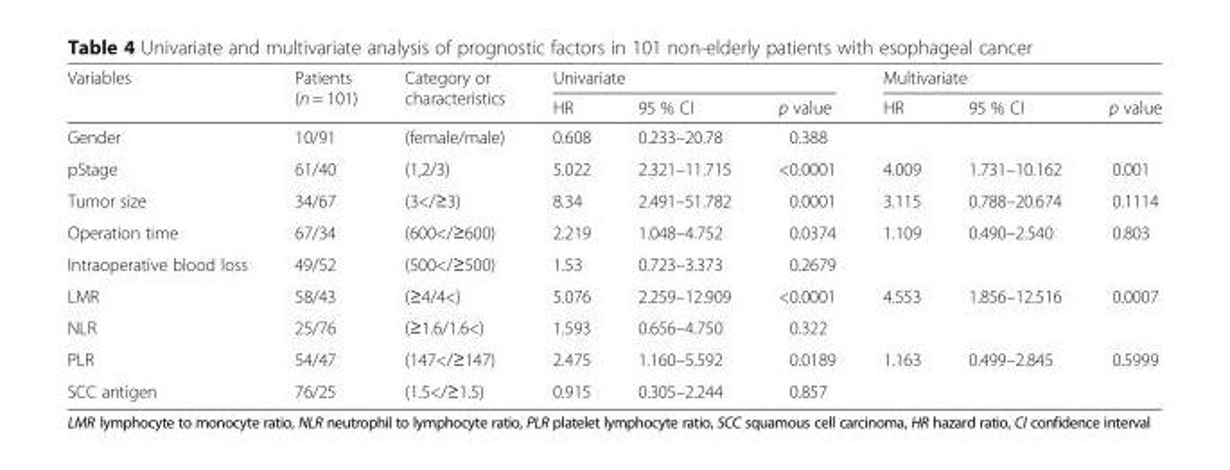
<table><thead><tr><td rowspan="2">Variables</td><td rowspan="2">Patients (n = 101)</td><td rowspan="2">Category or characteristics</td><td colspan="3">Univariate</td><td colspan="3">Multivariate</td></tr><tr><td>HR</td><td>95 % CI</td><td>p value</td><td>HR</td><td>95 % CI</td><td>p value</td></tr></thead><tbody><tr><td>Gender</td><td>10/91</td><td>(female/male)</td><td>0.608</td><td>0.233–20.78</td><td>0.388</td><td></td><td></td><td></td></tr><tr><td>pStage</td><td>61/40</td><td>(1,2/3)</td><td>5.022</td><td>2.321–11.715</td><td>&lt;0.0001</td><td>4.009</td><td>1.731–10.162</td><td>0.001</td></tr><tr><td>Tumor size</td><td>34/67</td><td>(3&lt;/≥3)</td><td>8.34</td><td>2.491–51.782</td><td>0.0001</td><td>3.115</td><td>0.788–20.674</td><td>0.1114</td></tr><tr><td>Operation time</td><td>67/34</td><td>(600&lt;/≥600)</td><td>2.219</td><td>1.048–4.752</td><td>0.0374</td><td>1.109</td><td>0.490–2.540</td><td>0.803</td></tr><tr><td>Intraoperative blood loss</td><td>49/52</td><td>(500&lt;/≥500)</td><td>1.53</td><td>0.723–3.373</td><td>0.2679</td><td></td><td></td><td></td></tr><tr><td>LMR</td><td>58/43</td><td>(≥4/4&lt;)</td><td>5.076</td><td>2.259–12.909</td><td>&lt;0.0001</td><td>4.553</td><td>1.856–12.516</td><td>0.0007</td></tr><tr><td>NLR</td><td>25/76</td><td>(≥1.6/1.6&lt;)</td><td>1.593</td><td>0.656–4.750</td><td>0.322</td><td></td><td></td><td></td></tr><tr><td>PLR</td><td>54/47</td><td>(147&lt;/≥147)</td><td>2.475</td><td>1.160–5.592</td><td>0.0189</td><td>1.163</td><td>0.499–2.845</td><td>0.5999</td></tr><tr><td>SCC antigen</td><td>76/25</td><td>(1.5&lt;/≥1.5)</td><td>0.915</td><td>0.305–2.244</td><td>0.857</td><td></td><td></td><td></td></tr></tbody></table>